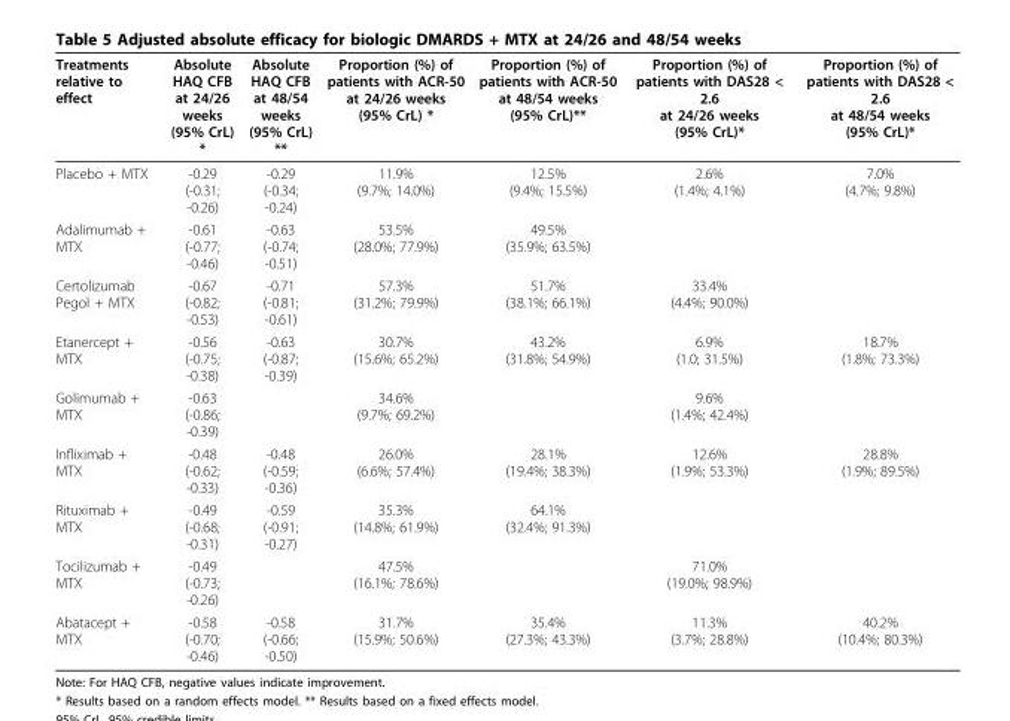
<table><thead><tr><td>Treatments relative to effect</td><td>Absolute HAQ CFB at 24/26 weeks (95% CrL) *</td><td>Absolute HAQ CFB at 48/54 weeks (95% CrL) **</td><td>Proportion (%) of patients with ACR-50 at 24/26 weeks (95% CrL) *</td><td>Proportion (%) of patients with ACR-50 at 48/54 weeks (95% CrL)**</td><td>Proportion (%) of patients with DAS28 &lt; 2.6 at 24/26 weeks (95% CrL)*</td><td>Proportion (%) of patients with DAS28 &lt; 2.6 at 48/54 weeks (95% CrL)*</td></tr></thead><tbody><tr><td>Placebo + MTX</td><td>-0.29 (-0.31; -0.26)</td><td>-0.29 (-0.34; -0.24)</td><td>11.9% (9.7%; 14.0%)</td><td>12.5% (9.4%; 15.5%)</td><td>2.6% (1.4%; 4.1%)</td><td>7.0% (4.7%; 9.8%)</td></tr><tr><td>Adalimumab + MTX</td><td>-0.61 (-0.77; -0.46)</td><td>-0.63 (-0.74; -0.51)</td><td>53.5% (28.0%; 77.9%)</td><td>49.5% (35.9%; 63.5%)</td><td></td><td></td></tr><tr><td>Certolizumab Pegol + MTX</td><td>-0.67 (-0.82; -0.53)</td><td>-0.71 (-0.81; -0.61)</td><td>57.3% (31.2%; 79.9%)</td><td>51.7% (38.1%; 66.1%)</td><td>33.4% (4.4%; 90.0%)</td><td></td></tr><tr><td>Etanercept + MTX</td><td>-0.56 (-0.75; -0.38)</td><td>-0.63 (-0.87; -0.39)</td><td>30.7% (15.6%; 65.2%)</td><td>43.2% (31.8%; 54.9%)</td><td>6.9% (1.0; 31.5%)</td><td>18.7% (1.8%; 73.3%)</td></tr><tr><td>Golimumab + MTX</td><td>-0.63 (-0.86; -0.39)</td><td></td><td>34.6% (9.7%; 69.2%)</td><td></td><td>9.6% (1.4%; 42.4%)</td><td></td></tr><tr><td>Infliximab + MTX</td><td>-0.48 (-0.62; -0.33)</td><td>-0.48 (-0.59; -0.36)</td><td>26.0% (6.6%; 57.4%)</td><td>28.1% (19.4%; 38.3%)</td><td>12.6% (1.9%; 53.3%)</td><td>28.8% (1.9%; 89.5%)</td></tr><tr><td>Rituximab + MTX</td><td>-0.49 (-0.68; -0.31)</td><td>-0.59 (-0.91; -0.27)</td><td>35.3% (14.8%; 61.9%)</td><td>64.1% (32.4%; 91.3%)</td><td></td><td></td></tr><tr><td>Tocilizumab + MTX</td><td>-0.49 (-0.73; -0.26)</td><td></td><td>47.5% (16.1%; 78.6%)</td><td></td><td>71.0% (19.0%; 98.9%)</td><td></td></tr><tr><td>Abatacept + MTX</td><td>-0.58 (-0.70; -0.46)</td><td>-0.58 (-0.66; -0.50)</td><td>31.7% (15.9%; 50.6%)</td><td>35.4% (27.3%; 43.3%)</td><td>11.3% (3.7%; 28.8%)</td><td>40.2% (10.4%; 80.3%)</td></tr></tbody></table>